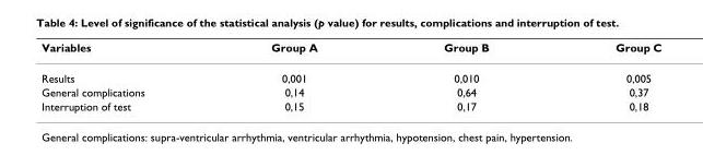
<table><thead><tr><td>Variables</td><td>Group A</td><td>Group B</td><td>Group C</td></tr></thead><tbody><tr><td>Results</td><td>0,001</td><td>0,010</td><td>0,005</td></tr><tr><td>General complications</td><td>0,14</td><td>0,64</td><td>0,37</td></tr><tr><td>Interruption of test</td><td>0,15</td><td>0,17</td><td>0,18</td></tr></tbody></table>